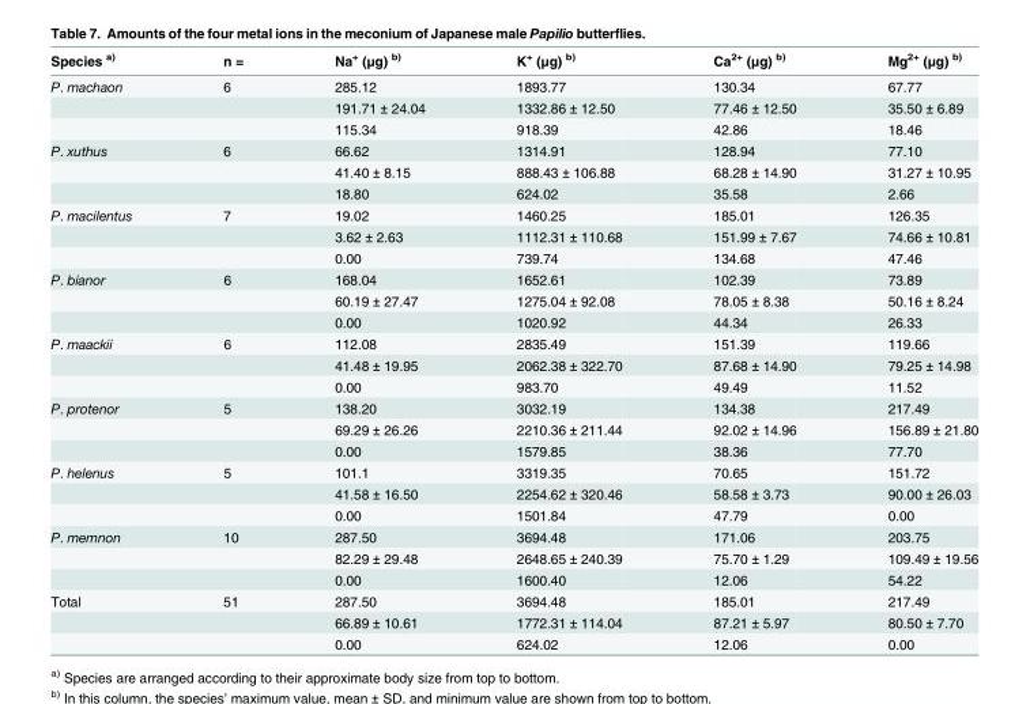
<table><thead><tr><td>Species <sup>a)</sup></td><td>n =</td><td>Na<sup>+</sup> (μg) <sup>b)</sup></td><td>K<sup>+</sup> (μg) <sup>b)</sup></td><td>Ca<sup>2+</sup> (μg) <sup>b)</sup></td><td>Mg<sup>2+</sup> (μg) <sup>b)</sup></td></tr></thead><tbody><tr><td rowspan="3">P. machaon</td><td>6</td><td>285.12</td><td>1893.77</td><td>130.34</td><td>67.77</td></tr><tr><td></td><td>191.71 ± 24.04</td><td>1332.86 ± 12.50</td><td>77.46 ± 12.50</td><td>35.50 ± 6.89</td></tr><tr><td></td><td>115.34</td><td>918.39</td><td>42.86</td><td>18.46</td></tr><tr><td rowspan="3">P. xuthus</td><td>6</td><td>66.62</td><td>1314.91</td><td>128.94</td><td>77.10</td></tr><tr><td></td><td>41.40 ± 8.15</td><td>888.43 ± 106.88</td><td>68.28 ± 14.90</td><td>31.27 ± 10.95</td></tr><tr><td></td><td>18.80</td><td>624.02</td><td>35.58</td><td>2.66</td></tr><tr><td rowspan="3">P. macilentus</td><td>7</td><td>19.02</td><td>1460.25</td><td>185.01</td><td>126.35</td></tr><tr><td></td><td>3.62 ± 2.63</td><td>1112.31 ± 110.68</td><td>151.99 ± 7.67</td><td>74.66 ± 10.81</td></tr><tr><td></td><td>0.00</td><td>739.74</td><td>134.68</td><td>47.46</td></tr><tr><td rowspan="3">P. bianor</td><td>6</td><td>168.04</td><td>1652.61</td><td>102.39</td><td>73.89</td></tr><tr><td></td><td>60.19 ± 27.47</td><td>1275.04 ± 92.08</td><td>78.05 ± 8.38</td><td>50.16 ± 8.24</td></tr><tr><td></td><td>0.00</td><td>1020.92</td><td>44.34</td><td>26.33</td></tr><tr><td rowspan="3">P. maackii</td><td>6</td><td>112.08</td><td>2835.49</td><td>151.39</td><td>119.66</td></tr><tr><td></td><td>41.48 ± 19.95</td><td>2062.38 ± 322.70</td><td>87.68 ± 14.90</td><td>79.25 ± 14.98</td></tr><tr><td></td><td>0.00</td><td>983.70</td><td>49.49</td><td>11.52</td></tr><tr><td rowspan="3">P. protenor</td><td>5</td><td>138.20</td><td>3032.19</td><td>134.38</td><td>217.49</td></tr><tr><td></td><td>69.29 ± 26.26</td><td>2210.36 ± 211.44</td><td>92.02 ± 14.96</td><td>156.89 ± 21.80</td></tr><tr><td></td><td>0.00</td><td>1579.85</td><td>38.36</td><td>77.70</td></tr><tr><td rowspan="3">P. helenus</td><td>5</td><td>101.1</td><td>3319.35</td><td>70.65</td><td>151.72</td></tr><tr><td></td><td>41.58 ± 16.50</td><td>2254.62 ± 320.46</td><td>58.58 ± 3.73</td><td>90.00 ± 26.03</td></tr><tr><td></td><td>0.00</td><td>1501.84</td><td>47.79</td><td>0.00</td></tr><tr><td rowspan="3">P. memnon</td><td>10</td><td>287.50</td><td>3694.48</td><td>171.06</td><td>203.75</td></tr><tr><td></td><td>82.29 ± 29.48</td><td>2648.65 ± 240.39</td><td>75.70 ± 1.29</td><td>109.49 ± 19.56</td></tr><tr><td></td><td>0.00</td><td>1600.40</td><td>12.06</td><td>54.22</td></tr><tr><td rowspan="3">Total</td><td>51</td><td>287.50</td><td>3694.48</td><td>185.01</td><td>217.49</td></tr><tr><td></td><td>66.89 ± 10.61</td><td>1772.31 ± 114.04</td><td>87.21 ± 5.97</td><td>80.50 ± 7.70</td></tr><tr><td></td><td>0.00</td><td>624.02</td><td>12.06</td><td>0.00</td></tr></tbody></table>